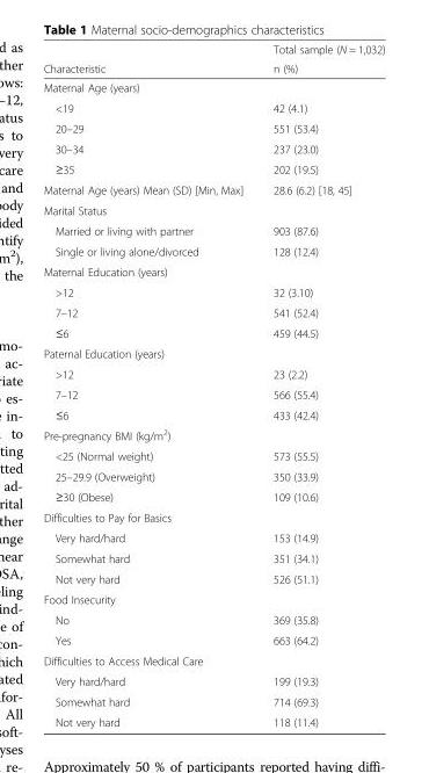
<table><thead><tr><td rowspan="2">Characteristic</td><td rowspan="2">Total sample (N = 1,032) n (%)</td></tr><tr></tr></thead><tbody><tr><td colspan="2">Maternal Age (years)</td></tr><tr><td>&lt;19</td><td>42 (4.1)</td></tr><tr><td>20–29</td><td>551 (53.4)</td></tr><tr><td>30–34</td><td>237 (23.0)</td></tr><tr><td>≥35</td><td>202 (19.5)</td></tr><tr><td>Maternal Age (years) Mean (SD) [Min, Max]</td><td>28.6 (6.2) [18, 45]</td></tr><tr><td colspan="2">Marital Status</td></tr><tr><td>Married or living with partner</td><td>903 (87.6)</td></tr><tr><td>Single or living alone/divorced</td><td>128 (12.4)</td></tr><tr><td colspan="2">Maternal Education (years)</td></tr><tr><td>&gt;12</td><td>32 (3.10)</td></tr><tr><td>7–12</td><td>541 (52.4)</td></tr><tr><td>≤6</td><td>459 (44.5)</td></tr><tr><td colspan="2">Paternal Education (years)</td></tr><tr><td>&gt;12</td><td>23 (2.2)</td></tr><tr><td>7–12</td><td>566 (55.4)</td></tr><tr><td>≤6</td><td>433 (42.4)</td></tr><tr><td colspan="2">Pre-pregnancy BMI (kg/m<sup>2</sup>)</td></tr><tr><td>&lt;25 (Normal weight)</td><td>573 (55.5)</td></tr><tr><td>25–29.9 (Overweight)</td><td>350 (33.9)</td></tr><tr><td>≥30 (Obese)</td><td>109 (10.6)</td></tr><tr><td colspan="2">Difficulties to Pay for Basics</td></tr><tr><td>Very hard/hard</td><td>153 (14.9)</td></tr><tr><td>Somewhat hard</td><td>351 (34.1)</td></tr><tr><td>Not very hard</td><td>526 (51.1)</td></tr><tr><td colspan="2">Food Insecurity</td></tr><tr><td>No</td><td>369 (35.8)</td></tr><tr><td>Yes</td><td>663 (64.2)</td></tr><tr><td colspan="2">Difficulties to Access Medical Care</td></tr><tr><td>Very hard/hard</td><td>199 (19.3)</td></tr><tr><td>Somewhat hard</td><td>714 (69.3)</td></tr><tr><td>Not very hard</td><td>118 (11.4)</td></tr></tbody></table>